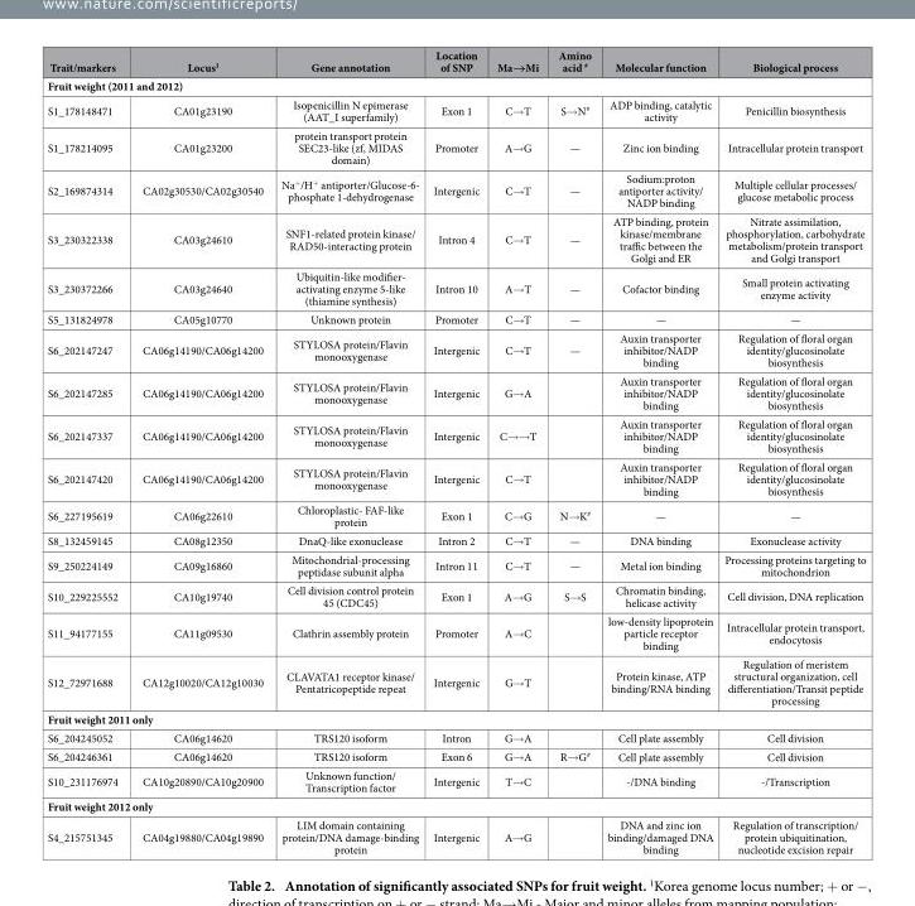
<table><thead><tr><td>Trait/markers</td><td>Locus<sup>1</sup></td><td>Gene annotation</td><td>Location of SNP</td><td>Ma→Mi</td><td>Amino acid <sup>#</sup></td><td>Molecular function</td><td>Biological process</td></tr></thead><tbody><tr><td colspan="8">Fruit weight (2011 and 2012)</td></tr><tr><td>S1_178148471</td><td>CA01g23190</td><td>Isopenicillin N epimerase (AAT_I superfamily)</td><td>Exon 1</td><td>C→ T</td><td>S→ N<sup>#</sup></td><td>ADP binding, catalytic activity</td><td>Penicillin biosynthesis</td></tr><tr><td>S1_178214095</td><td>CA01g23200</td><td>protein transport protein SEC23-like (zf, MIDAS domain)</td><td>Promoter</td><td>A→ G</td><td>—</td><td>Zinc ion binding</td><td>Intracellular protein transport</td></tr><tr><td>S2_169874314</td><td>CA02g30530/CA02g30540</td><td>Na<sup>+</sup>/H<sup>+</sup> antiporter/Glucose-6- phosphate 1-dehydrogenase</td><td>Intergenic</td><td>C→ T</td><td>—</td><td>Sodium:proton antiporter activity/ NADP binding</td><td>Multiple cellular processes/ glucose metabolic process</td></tr><tr><td>S3_230322338</td><td>CA03g24610</td><td>SNF1-related protein kinase/ RAD50-interacting protein</td><td>Intron 4</td><td>C→ T</td><td>—</td><td>ATP binding, protein kinase/membrane traffic between the Golgi and ER</td><td>Nitrate assimilation, phosphorylation, carbohydrate metabolism/protein transport and Golgi transport</td></tr><tr><td>S3_230372266</td><td>CA03g24640</td><td>Ubiquitin-like modifier- activating enzyme 5-like (thiamine synthesis)</td><td>Intron 10</td><td>A→ T</td><td>—</td><td>Cofactor binding</td><td>Small protein activating enzyme activity</td></tr><tr><td>S5_131824978</td><td>CA05g10770</td><td>Unknown protein</td><td>Promoter</td><td>C→ T</td><td>—</td><td>—</td><td>—</td></tr><tr><td>S6_202147247</td><td>CA06g14190/CA06g14200</td><td>STYLOSA protein/Flavin monooxygenase</td><td>Intergenic</td><td>C→ T</td><td>—</td><td>Auxin transporter inhibitor/NADP binding</td><td>Regulation of floral organ identity/glucosinolate biosynthesis</td></tr><tr><td>S6_202147285</td><td>CA06g14190/CA06g14200</td><td>STYLOSA protein/Flavin monooxygenase</td><td>Intergenic</td><td>G→ A</td><td></td><td>Auxin transporter inhibitor/NADP binding</td><td>Regulation of floral organ identity/glucosinolate biosynthesis</td></tr><tr><td>S6_202147337</td><td>CA06g14190/CA06g14200</td><td>STYLOSA protein/Flavin monooxygenase</td><td>Intergenic</td><td>C→ → T</td><td></td><td>Auxin transporter inhibitor/NADP binding</td><td>Regulation of floral organ identity/glucosinolate biosynthesis</td></tr><tr><td>S6_202147420</td><td>CA06g14190/CA06g14200</td><td>STYLOSA protein/Flavin monooxygenase</td><td>Intergenic</td><td>C→ T</td><td></td><td>Auxin transporter inhibitor/NADP binding</td><td>Regulation of floral organ identity/glucosinolate biosynthesis</td></tr><tr><td>S6_227195619</td><td>CA06g22610</td><td>Chloroplastic- FAF-like protein</td><td>Exon 1</td><td>C→ G</td><td>N→ K<sup>#</sup></td><td>—</td><td>—</td></tr><tr><td>S8_132459145</td><td>CA08g12350</td><td>DnaQ-like exonuclease</td><td>Intron 2</td><td>C→ T</td><td>—</td><td>DNA binding</td><td>Exonuclease activity</td></tr><tr><td>S9_250224149</td><td>CA09g16860</td><td>Mitochondrial-processing peptidase subunit alpha</td><td>Intron 11</td><td>C→ T</td><td>—</td><td>Metal ion binding</td><td>Processing proteins targeting to mitochondrion</td></tr><tr><td>S10_229225552</td><td>CA10g19740</td><td>Cell division control protein 45 (CDC45)</td><td>Exon 1</td><td>A→ G</td><td>S→ S</td><td>Chromatin binding, helicase activity</td><td>Cell division, DNA replication</td></tr><tr><td>S11_94177155</td><td>CA11g09530</td><td>Clathrin assembly protein</td><td>Promoter</td><td>A→ C</td><td></td><td>low-density lipoprotein particle receptor binding</td><td>Intracellular protein transport, endocytosis</td></tr><tr><td>S12_72971688</td><td>CA12g10020/CA12g10030</td><td>CLAVATA1 receptor kinase/ Pentatricopeptide repeat</td><td>Intergenic</td><td>G→ T</td><td></td><td>Protein kinase, ATP binding/RNA binding</td><td>Regulation of meristem structural organization, cell differentiation/Transit peptide processing</td></tr><tr><td colspan="8">Fruit weight 2011 only</td></tr><tr><td>S6_204245052</td><td>CA06g14620</td><td>TRS120 isoform</td><td>Intron</td><td>G→ A</td><td></td><td>Cell plate assembly</td><td>Cell division</td></tr><tr><td>S6_204246361</td><td>CA06g14620</td><td>TRS120 isoform</td><td>Exon 6</td><td>G→ A</td><td>R→ G<sup>#</sup></td><td>Cell plate assembly</td><td>Cell division</td></tr><tr><td>S10_231176974</td><td>CA10g20890/CA10g20900</td><td>Unknown function/ Transcription factor</td><td>Intergenic</td><td>T→ C</td><td></td><td>-/DNA binding</td><td>-/Transcription</td></tr><tr><td colspan="8">Fruit weight 2012 only</td></tr><tr><td>S4_215751345</td><td>CA04g19880/CA04g19890</td><td>LIM domain containing protein/DNA damage-binding protein</td><td>Intergenic</td><td>A→ G</td><td></td><td>DNA and zinc ion binding/damaged DNA binding</td><td>Regulation of transcription/ protein ubiquitination, nucleotide excision repair</td></tr></tbody></table>